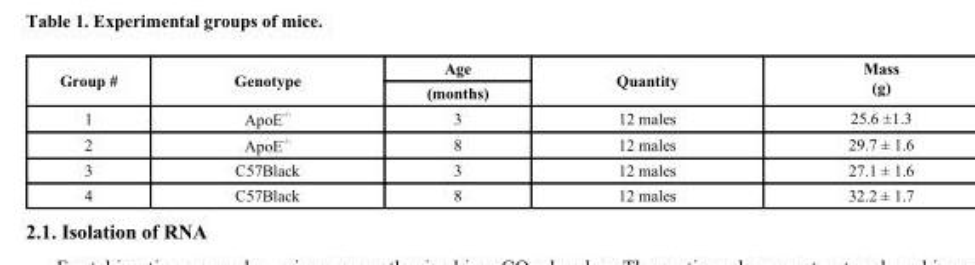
<table><thead><tr><td rowspan="2">Group #</td><td rowspan="2">Genotype</td><td rowspan="2">Age (months)</td><td rowspan="2">Quantity</td><td rowspan="2">Mass (g)</td></tr><tr></tr></thead><tbody><tr><td>1</td><td>АроЕ <sup>-/-</sup></td><td>3</td><td>12 males</td><td>25.6 ±1.3</td></tr><tr><td>2</td><td>АроЕ <sup>-/-</sup></td><td>8</td><td>12 males</td><td>29.7 ± 1.6</td></tr><tr><td>3</td><td>С57Black</td><td>3</td><td>12 males</td><td>27.1 ± 1.6</td></tr><tr><td>4</td><td>С57Black</td><td>8</td><td>12 males</td><td>32.2 ± 1.7</td></tr></tbody></table>